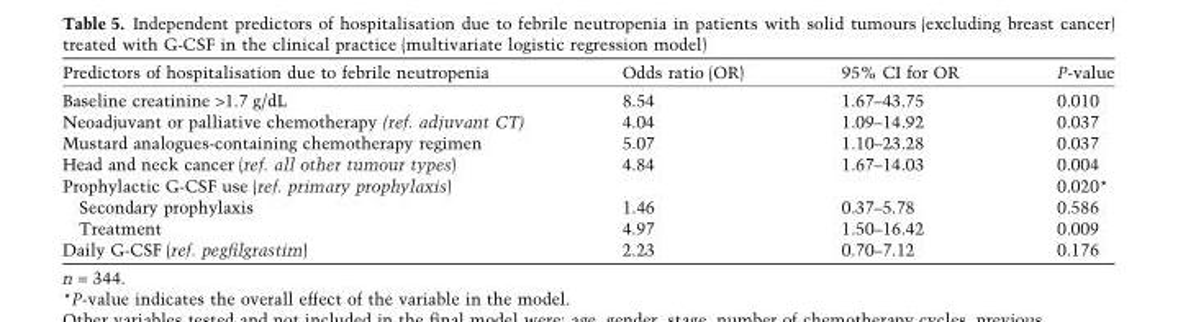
<table><thead><tr><td>Predictors of hospitalisation due to febrile neutropenia</td><td>Odds ratio (OR)</td><td>95% CI for OR</td><td>P-value</td></tr></thead><tbody><tr><td>Baseline creatinine &gt;1.7 g/dL</td><td>8.54</td><td>1.67–43.75</td><td>0.010</td></tr><tr><td>Neoadjuvant or palliative chemotherapy (ref. adjuvant CT)</td><td>4.04</td><td>1.09–14.92</td><td>0.037</td></tr><tr><td>Mustard analogues-containing chemotherapy regimen</td><td>5.07</td><td>1.10–23.28</td><td>0.037</td></tr><tr><td>Head and neck cancer (ref. all other tumour types)</td><td>4.84</td><td>1.67–14.03</td><td>0.004</td></tr><tr><td>Prophylactic G-CSF use (ref. primary prophylaxis)</td><td></td><td></td><td>0.020*</td></tr><tr><td>Secondary prophylaxis</td><td>1.46</td><td>0.37–5.78</td><td>0.586</td></tr><tr><td>Treatment</td><td>4.97</td><td>1.50–16.42</td><td>0.009</td></tr><tr><td>Daily G-CSF (ref. pegfilgrastim)</td><td>2.23</td><td>0.70–7.12</td><td>0.176</td></tr></tbody></table>